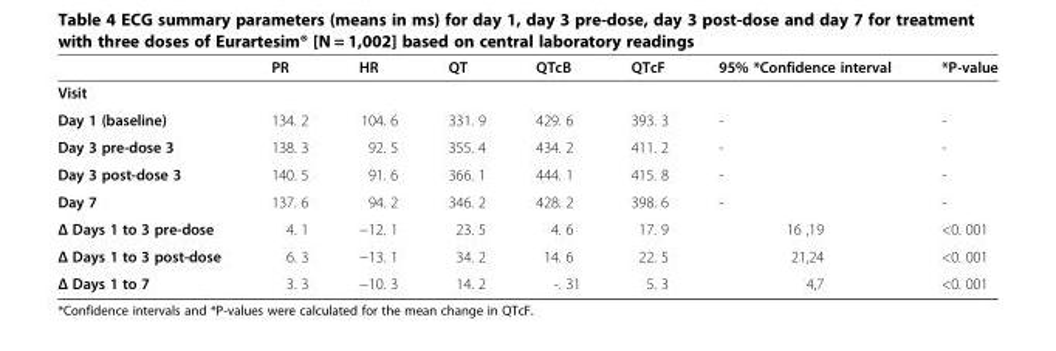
<table><thead><tr><td></td><td>PR</td><td>HR</td><td>QT</td><td>QTcB</td><td>QTcF</td><td>95% *Confidence interval</td><td>*P-value</td></tr></thead><tbody><tr><td colspan="8">Visit</td></tr><tr><td>Day 1 (baseline)</td><td>134. 2</td><td>104. 6</td><td>331. 9</td><td>429. 6</td><td>393. 3</td><td>-</td><td>-</td></tr><tr><td>Day 3 pre-dose 3</td><td>138. 3</td><td>92. 5</td><td>355. 4</td><td>434. 2</td><td>411. 2</td><td>-</td><td>-</td></tr><tr><td>Day 3 post-dose 3</td><td>140. 5</td><td>91. 6</td><td>366. 1</td><td>444. 1</td><td>415. 8</td><td>-</td><td>-</td></tr><tr><td>Day 7</td><td>137. 6</td><td>94. 2</td><td>346. 2</td><td>428. 2</td><td>398. 6</td><td>-</td><td>-</td></tr><tr><td>Δ Days 1 to 3 pre-dose</td><td>4. 1</td><td>−12. 1</td><td>23. 5</td><td>4. 6</td><td>17. 9</td><td>16 ,19</td><td>&lt;0. 001</td></tr><tr><td>Δ Days 1 to 3 post-dose</td><td>6. 3</td><td>−13. 1</td><td>34. 2</td><td>14. 6</td><td>22. 5</td><td>21,24</td><td>&lt;0. 001</td></tr><tr><td>Δ Days 1 to 7</td><td>3. 3</td><td>−10. 3</td><td>14. 2</td><td>-. 31</td><td>5. 3</td><td>4,7</td><td>&lt;0. 001</td></tr></tbody></table>